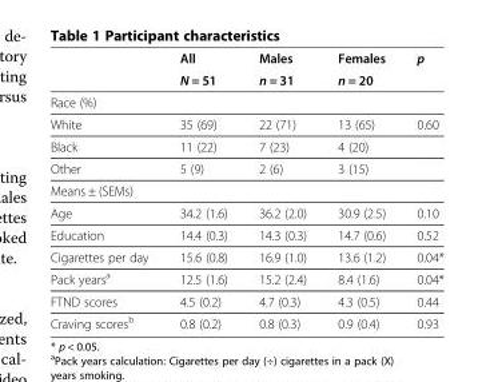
<table><thead><tr><td rowspan="2"></td><td rowspan="2">All N = 51</td><td rowspan="2">Males n = 31</td><td rowspan="2">Females n = 20</td><td rowspan="2">p</td></tr><tr></tr></thead><tbody><tr><td colspan="5">Race (%)</td></tr><tr><td>White</td><td>35 (69)</td><td>22 (71)</td><td>13 (65)</td><td>0.60</td></tr><tr><td>Black</td><td>11 (22)</td><td>7 (23)</td><td>4 (20)</td><td></td></tr><tr><td>Other</td><td>5 (9)</td><td>2 (6)</td><td>3 (15)</td><td></td></tr><tr><td colspan="5">Means ± (SEMs)</td></tr><tr><td>Age</td><td>34.2 (1.6)</td><td>36.2 (2.0)</td><td>30.9 (2.5)</td><td>0.10</td></tr><tr><td>Education</td><td>14.4 (0.3)</td><td>14.3 (0.3)</td><td>14.7 (0.6)</td><td>0.52</td></tr><tr><td>Cigarettes per day</td><td>15.6 (0.8)</td><td>16.9 (1.0)</td><td>13.6 (1.2)</td><td>0.04*</td></tr><tr><td>Pack years<sup>a</sup></td><td>12.5 (1.6)</td><td>15.2 (2.4)</td><td>8.4 (1.6)</td><td>0.04*</td></tr><tr><td>FTND scores</td><td>4.5 (0.2)</td><td>4.7 (0.3)</td><td>4.3 (0.5)</td><td>0.44</td></tr><tr><td>Craving scores<sup>b</sup></td><td>0.8 (0.2)</td><td>0.8 (0.3)</td><td>0.9 (0.4)</td><td>0.93</td></tr></tbody></table>